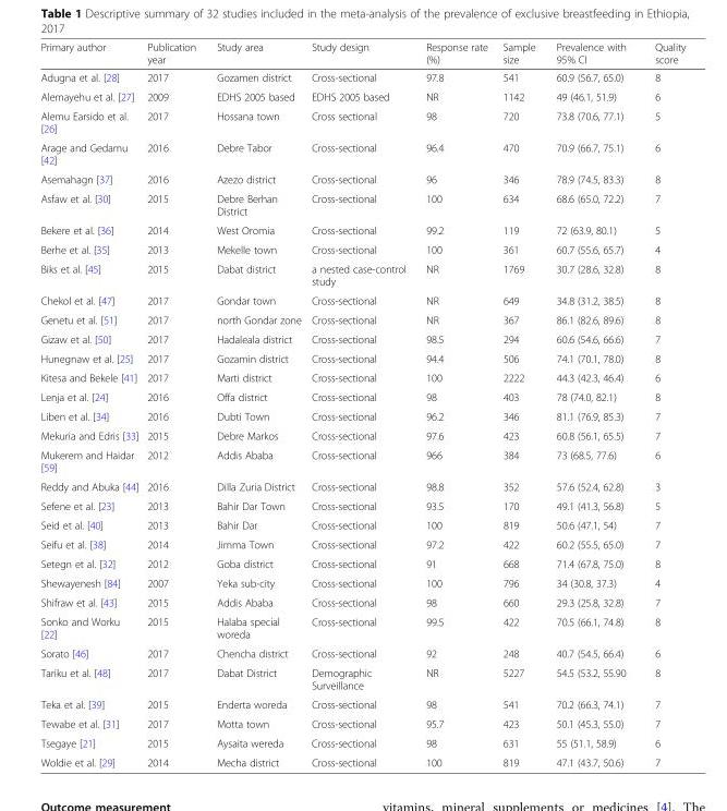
<table><thead><tr><td>Primary author</td><td>Publication year</td><td>Study area</td><td>Study design</td><td>Response rate (%)</td><td>Sample size</td><td>Prevalence with 95% CI</td><td>Quality score</td></tr></thead><tbody><tr><td>Adugna et al. [28]</td><td>2017</td><td>Gozamen district</td><td>Cross-sectional</td><td>97.8</td><td>541</td><td>60.9 (56.7, 65.0)</td><td>8</td></tr><tr><td>Alemayehu et al. [27]</td><td>2009</td><td>EDHS 2005 based</td><td>EDHS 2005 based</td><td>NR</td><td>1142</td><td>49 (46.1, 51.9)</td><td>6</td></tr><tr><td>Alemu Earsido et al. [26]</td><td>2017</td><td>Hossana town</td><td>Cross sectional</td><td>98</td><td>720</td><td>73.8 (70.6, 77.1)</td><td>5</td></tr><tr><td>Arage and Gedamu [42]</td><td>2016</td><td>Debre Tabor</td><td>Cross-sectional</td><td>96.4</td><td>470</td><td>70.9 (66.7, 75.1)</td><td>6</td></tr><tr><td>Asemahagn [37]</td><td>2016</td><td>Azezo district</td><td>Cross-sectional</td><td>96</td><td>346</td><td>78.9 (74.5, 83.3)</td><td>8</td></tr><tr><td>Asfaw et al. [30]</td><td>2015</td><td>Debre Berhan District</td><td>Cross-sectional</td><td>100</td><td>634</td><td>68.6 (65.0, 72.2)</td><td>7</td></tr><tr><td>Bekere et al. [36]</td><td>2014</td><td>West Oromia</td><td>Cross-sectional</td><td>99.2</td><td>119</td><td>72 (63.9, 80.1)</td><td>5</td></tr><tr><td>Berhe et al. [35]</td><td>2013</td><td>Mekelle town</td><td>Cross-sectional</td><td>100</td><td>361</td><td>60.7 (55.6, 65.7)</td><td>4</td></tr><tr><td>Biks et al. [45]</td><td>2015</td><td>Dabat district</td><td>a nested case-control study</td><td>NR</td><td>1769</td><td>30.7 (28.6, 32.8)</td><td>8</td></tr><tr><td>Chekol et al. [47]</td><td>2017</td><td>Gondar town</td><td>Cross-sectional</td><td>NR</td><td>649</td><td>34.8 (31.2, 38.5)</td><td>8</td></tr><tr><td>Genetu et al. [51]</td><td>2017</td><td>north Gondar zone</td><td>Cross-sectional</td><td>NR</td><td>367</td><td>86.1 (82.6, 89.6)</td><td>8</td></tr><tr><td>Gizaw et al. [50]</td><td>2017</td><td>Hadaleala district</td><td>Cross-sectional</td><td>98.5</td><td>294</td><td>60.6 (54.6, 66.6)</td><td>7</td></tr><tr><td>Hunegnaw et al. [25]</td><td>2017</td><td>Gozamin district</td><td>Cross-sectional</td><td>94.4</td><td>506</td><td>74.1 (70.1, 78.0)</td><td>8</td></tr><tr><td>Kitesa and Bekele [41]</td><td>2017</td><td>Marti district</td><td>Cross-sectional</td><td>100</td><td>2222</td><td>44.3 (42.3, 46.4)</td><td>6</td></tr><tr><td>Lenja et al. [24]</td><td>2016</td><td>Offa district</td><td>Cross-sectional</td><td>98</td><td>403</td><td>78 (74.0, 82.1)</td><td>8</td></tr><tr><td>Liben et al. [34]</td><td>2016</td><td>Dubti Town</td><td>Cross-sectional</td><td>96.2</td><td>346</td><td>81.1 (76.9, 85.3)</td><td>7</td></tr><tr><td>Mekuria and Edris [33]</td><td>2015</td><td>Debre Markos</td><td>Cross-sectional</td><td>97.6</td><td>423</td><td>60.8 (56.1, 65.5)</td><td>7</td></tr><tr><td>Mukerem and Haidar [59]</td><td>2012</td><td>Addis Ababa</td><td>Cross-sectional</td><td>966</td><td>384</td><td>73 (68.5, 77.6)</td><td>6</td></tr><tr><td>Reddy and Abuka [44]</td><td>2016</td><td>Dilla Zuria District</td><td>Cross-sectional</td><td>98.8</td><td>352</td><td>57.6 (52.4, 62.8)</td><td>3</td></tr><tr><td>Sefene et al. [23]</td><td>2013</td><td>Bahir Dar Town</td><td>Cross-sectional</td><td>93.5</td><td>170</td><td>49.1 (41.3, 56.8)</td><td>5</td></tr><tr><td>Seid et al. [40]</td><td>2013</td><td>Bahir Dar</td><td>Cross-sectional</td><td>100</td><td>819</td><td>50.6 (47.1, 54)</td><td>7</td></tr><tr><td>Seifu et al. [38]</td><td>2014</td><td>Jimma Town</td><td>Cross-sectional</td><td>97.2</td><td>422</td><td>60.2 (55.5, 65.0)</td><td>7</td></tr><tr><td>Setegn et al. [32]</td><td>2012</td><td>Goba district</td><td>Cross-sectional</td><td>91</td><td>668</td><td>71.4 (67.8, 75.0)</td><td>8</td></tr><tr><td>Shewayenesh [84]</td><td>2007</td><td>Yeka sub-city</td><td>Cross-sectional</td><td>100</td><td>796</td><td>34 (30.8, 37.3)</td><td>4</td></tr><tr><td>Shifraw et al. [43]</td><td>2015</td><td>Addis Ababa</td><td>Cross-sectional</td><td>98</td><td>660</td><td>29.3 (25.8, 32.8)</td><td>7</td></tr><tr><td>Sonko and Worku [22]</td><td>2015</td><td>Halaba special woreda</td><td>Cross-sectional</td><td>99.5</td><td>422</td><td>70.5 (66.1, 74.8)</td><td>8</td></tr><tr><td>Sorato [46]</td><td>2017</td><td>Chencha district</td><td>Cross-sectional</td><td>92</td><td>248</td><td>40.7 (54.5, 66.4)</td><td>6</td></tr><tr><td>Tariku et al. [48]</td><td>2017</td><td>Dabat District</td><td>Demographic Surveillance</td><td>NR</td><td>5227</td><td>54.5 (53.2, 55.90</td><td>8</td></tr><tr><td>Teka et al. [39]</td><td>2015</td><td>Enderta woreda</td><td>Cross-sectional</td><td>98</td><td>541</td><td>70.2 (66.3, 74.1)</td><td>7</td></tr><tr><td>Tewabe et al. [31]</td><td>2017</td><td>Motta town</td><td>Cross-sectional</td><td>95.7</td><td>423</td><td>50.1 (45.3, 55.0)</td><td>7</td></tr><tr><td>Tsegaye [21]</td><td>2015</td><td>Aysaita wereda</td><td>Cross-sectional</td><td>98</td><td>631</td><td>55 (51.1, 58.9)</td><td>6</td></tr><tr><td>Woldie et al. [29]</td><td>2014</td><td>Mecha district</td><td>Cross-sectional</td><td>100</td><td>819</td><td>47.1 (43.7, 50.6)</td><td>7</td></tr></tbody></table>